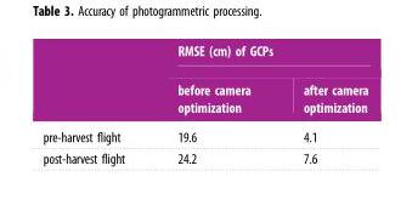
<table><thead><tr><td rowspan="2"></td><td colspan="2">RMSE (cm) of GCPs</td></tr><tr><td>before camera optimization</td><td>after camera optimization</td></tr></thead><tbody><tr><td>pre-harvest flight</td><td>19.6</td><td>4.1</td></tr><tr><td>post-harvest flight</td><td>24.2</td><td>7.6</td></tr></tbody></table>